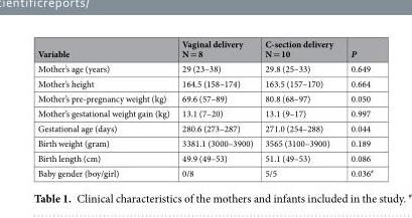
<table><thead><tr><td>Variable</td><td>Vaginal delivery N = 8</td><td>C-section delivery N = 10</td><td>P</td></tr></thead><tbody><tr><td>Mother’s age (years)</td><td>29 (23–38)</td><td>29.8 (25–33)</td><td>0.649</td></tr><tr><td>Mother’s height</td><td>164.5 (158–174)</td><td>163.5 (157–170)</td><td>0.664</td></tr><tr><td>Mother’s pre-pregnancy weight (kg)</td><td>69.6 (57–89)</td><td>80.8 (68–97)</td><td>0.050</td></tr><tr><td>Mother’s gestational weight gain (kg)</td><td>13.1 (7–20)</td><td>13.1 (9–17)</td><td>0.997</td></tr><tr><td>Gestational age (days)</td><td>280.6 (273–287)</td><td>271.0 (254–288)</td><td>0.044</td></tr><tr><td>Birth weight (gram)</td><td>3381.1 (3000–3900)</td><td>3565 (3100–3900)</td><td>0.189</td></tr><tr><td>Birth length (cm)</td><td>49.9 (49–53)</td><td>51.1 (49–53)</td><td>0.086</td></tr><tr><td>Baby gender (boy/girl)</td><td>0/8</td><td>5/5</td><td>0.036<sup>#</sup></td></tr></tbody></table>